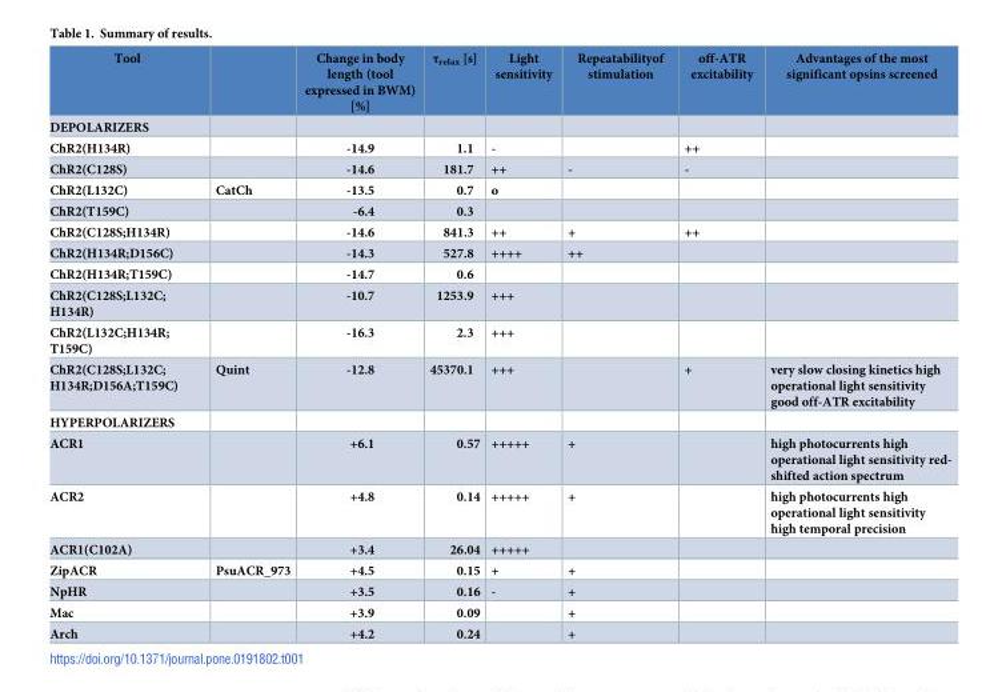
<table><thead><tr><td>Tool</td><td></td><td>Change in body length (tool expressed in BWM) [%]</td><td>τ<sub>relax</sub> [s]</td><td>Light sensitivity</td><td>Repeatabilityof stimulation</td><td>off-ATR excitability</td><td>Advantages of the most significant opsins screened</td></tr></thead><tbody><tr><td colspan="8">DEPOLARIZERS</td></tr><tr><td>ChR2(H134R)</td><td></td><td>-14.9</td><td>1.1</td><td>-</td><td></td><td>++</td><td></td></tr><tr><td>ChR2(C128S)</td><td></td><td>-14.6</td><td>181.7</td><td>++</td><td>-</td><td>-</td><td></td></tr><tr><td>ChR2(L132C)</td><td>CatCh</td><td>-13.5</td><td>0.7</td><td>o</td><td></td><td></td><td></td></tr><tr><td>ChR2(T159C)</td><td></td><td>-6.4</td><td>0.3</td><td></td><td></td><td></td><td></td></tr><tr><td>ChR2(C128S;H134R)</td><td></td><td>-14.6</td><td>841.3</td><td>++</td><td>+</td><td>++</td><td></td></tr><tr><td>ChR2(H134R;D156C)</td><td></td><td>-14.3</td><td>527.8</td><td>++++</td><td>++</td><td></td><td></td></tr><tr><td>ChR2(H134R;T159C)</td><td></td><td>-14.7</td><td>0.6</td><td></td><td></td><td></td><td></td></tr><tr><td>ChR2(C128S;L132C; H134R)</td><td></td><td>-10.7</td><td>1253.9</td><td>+++</td><td></td><td></td><td></td></tr><tr><td>ChR2(L132C;H134R; T159C)</td><td></td><td>-16.3</td><td>2.3</td><td>+++</td><td></td><td></td><td></td></tr><tr><td>ChR2(C128S;L132C; H134R;D156A;T159C)</td><td>Quint</td><td>-12.8</td><td>45370.1</td><td>+++</td><td></td><td>+</td><td>very slow closing kinetics high operational light sensitivity good off-ATR excitability</td></tr><tr><td colspan="8">HYPERPOLARIZERS</td></tr><tr><td>ACR1</td><td></td><td>+6.1</td><td>0.57</td><td>+++++</td><td>+</td><td></td><td>high photocurrents high operational light sensitivity red- shifted action spectrum</td></tr><tr><td>ACR2</td><td></td><td>+4.8</td><td>0.14</td><td>+++++</td><td>+</td><td></td><td>high photocurrents high operational light sensitivity high temporal precision</td></tr><tr><td>ACR1(C102A)</td><td></td><td>+3.4</td><td>26.04</td><td>+++++</td><td></td><td></td><td></td></tr><tr><td>ZipACR</td><td>PsuACR_973</td><td>+4.5</td><td>0.15</td><td>+</td><td>+</td><td></td><td></td></tr><tr><td>NpHR</td><td></td><td>+3.5</td><td>0.16</td><td>-</td><td>+</td><td></td><td></td></tr><tr><td>Mac</td><td></td><td>+3.9</td><td>0.09</td><td></td><td>+</td><td></td><td></td></tr><tr><td>Arch</td><td></td><td>+4.2</td><td>0.24</td><td></td><td>+</td><td></td><td></td></tr></tbody></table>